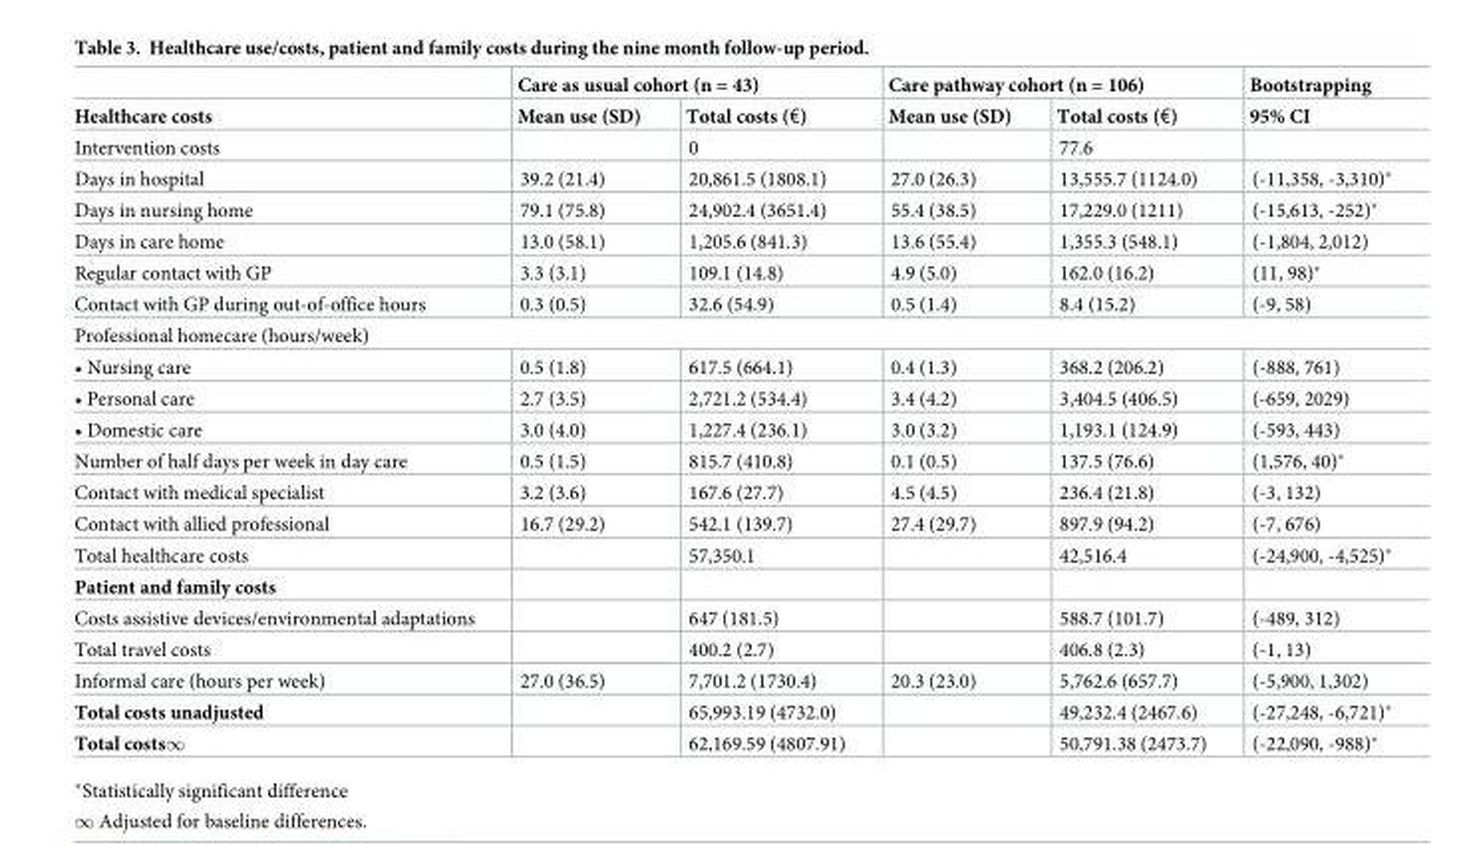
<table><thead><tr><td rowspan="2">Healthcare costs</td><td colspan="2">Care as usual cohort (n = 43)</td><td colspan="2">Care pathway cohort (n = 106)</td><td rowspan="2">Bootstrapping 95% CI</td></tr><tr><td>Mean use (SD)</td><td>Total costs (€)</td><td>Mean use (SD)</td><td>Total costs (€)</td></tr></thead><tbody><tr><td>Intervention costs</td><td></td><td>0</td><td></td><td>77.6</td><td></td></tr><tr><td>Days in hospital</td><td>39.2 (21.4)</td><td>20,861.5 (1808.1)</td><td>27.0 (26.3)</td><td>13,555.7 (1124.0)</td><td>(-11,358, -3,310)*</td></tr><tr><td>Days in nursing home</td><td>79.1 (75.8)</td><td>24,902.4 (3651.4)</td><td>55.4 (38.5)</td><td>17,229.0 (1211)</td><td>(-15,613, -252)*</td></tr><tr><td>Days in care home</td><td>13.0 (58.1)</td><td>1,205.6 (841.3)</td><td>13.6 (55.4)</td><td>1,355.3 (548.1)</td><td>(-1,804, 2,012)</td></tr><tr><td>Regular contact with GP</td><td>3.3 (3.1)</td><td>109.1 (14.8)</td><td>4.9 (5.0)</td><td>162.0 (16.2)</td><td>(11, 98)*</td></tr><tr><td>Contact with GP during out-of-office hours</td><td>0.3 (0.5)</td><td>32.6 (54.9)</td><td>0.5 (1.4)</td><td>8.4 (15.2)</td><td>(-9, 58)</td></tr><tr><td colspan="6">Professional homecare (hours/week)</td></tr><tr><td>• Nursing care</td><td>0.5 (1.8)</td><td>617.5 (664.1)</td><td>0.4 (1.3)</td><td>368.2 (206.2)</td><td>(-888, 761)</td></tr><tr><td>• Personal care</td><td>2.7 (3.5)</td><td>2,721.2 (534.4)</td><td>3.4 (4.2)</td><td>3,404.5 (406.5)</td><td>(-659, 2029)</td></tr><tr><td>• Domestic care</td><td>3.0 (4.0)</td><td>1,227.4 (236.1)</td><td>3.0 (3.2)</td><td>1,193.1 (124.9)</td><td>(-593, 443)</td></tr><tr><td>Number of half days per week in day care</td><td>0.5 (1.5)</td><td>815.7 (410.8)</td><td>0.1 (0.5)</td><td>137.5 (76.6)</td><td>(1,576, 40)*</td></tr><tr><td>Contact with medical specialist</td><td>3.2 (3.6)</td><td>167.6 (27.7)</td><td>4.5 (4.5)</td><td>236.4 (21.8)</td><td>(-3, 132)</td></tr><tr><td>Contact with allied professional</td><td>16.7 (29.2)</td><td>542.1 (139.7)</td><td>27.4 (29.7)</td><td>897.9 (94.2)</td><td>(-7, 676)</td></tr><tr><td>Total healthcare costs</td><td></td><td>57,350.1</td><td></td><td>42,516.4</td><td>(-24,900, -4,525)*</td></tr><tr><td colspan="6">Patient and family costs</td></tr><tr><td>Costs assistive devices/environmental adaptations</td><td></td><td>647 (181.5)</td><td></td><td>588.7 (101.7)</td><td>(-489, 312)</td></tr><tr><td>Total travel costs</td><td></td><td>400.2 (2.7)</td><td></td><td>406.8 (2.3)</td><td>(-1, 13)</td></tr><tr><td>Informal care (hours per week)</td><td>27.0 (36.5)</td><td>7,701.2 (1730.4)</td><td>20.3 (23.0)</td><td>5,762.6 (657.7)</td><td>(-5,900, 1,302)</td></tr><tr><td>Total costs unadjusted</td><td></td><td>65,993.19 (4732.0)</td><td></td><td>49,232.4 (2467.6)</td><td>(-27,248, -6,721)*</td></tr><tr><td>Total costs∞</td><td></td><td>62,169.59 (4807.91)</td><td></td><td>50,791.38 (2473.7)</td><td>(-22,090, -988)*</td></tr></tbody></table>